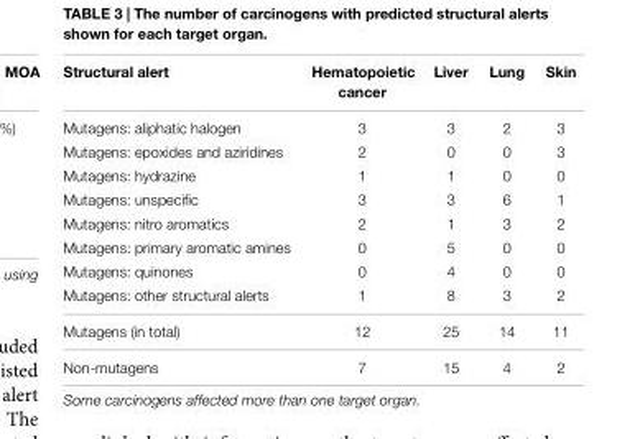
<table><thead><tr><td>Structural alert</td><td>Hematopoietic cancer</td><td>Liver</td><td>Lung</td><td>Skin</td></tr></thead><tbody><tr><td>Mutagens: aliphatic halogen</td><td>3</td><td>3</td><td>2</td><td>3</td></tr><tr><td>Mutagens: epoxides and aziridines</td><td>2</td><td>0</td><td>0</td><td>3</td></tr><tr><td>Mutagens: hydrazine</td><td>1</td><td>1</td><td>0</td><td>0</td></tr><tr><td>Mutagens: unspecific</td><td>3</td><td>3</td><td>6</td><td>1</td></tr><tr><td>Mutagens: nitro aromatics</td><td>2</td><td>1</td><td>3</td><td>2</td></tr><tr><td>Mutagens: primary aromatic amines</td><td>0</td><td>5</td><td>0</td><td>0</td></tr><tr><td>Mutagens: quinones</td><td>0</td><td>4</td><td>0</td><td>0</td></tr><tr><td>Mutagens: other structural alerts</td><td>1</td><td>8</td><td>3</td><td>2</td></tr><tr><td>Mutagens (in total)</td><td>12</td><td>25</td><td>14</td><td>11</td></tr><tr><td>Non-mutagens</td><td>7</td><td>15</td><td>4</td><td>2</td></tr></tbody></table>